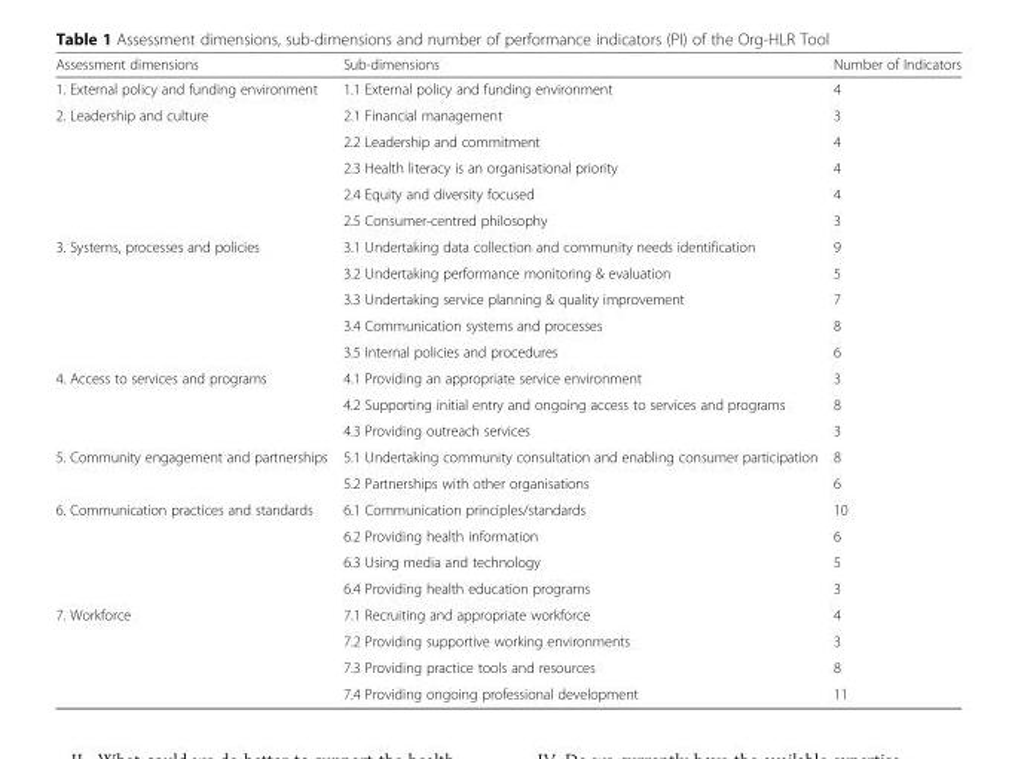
<table><thead><tr><td>Assessment dimensions</td><td>Sub-dimensions</td><td>Number of Indicators</td></tr></thead><tbody><tr><td>1. External policy and funding environment</td><td>1.1 External policy and funding environment</td><td>4</td></tr><tr><td rowspan="5">2. Leadership and culture</td><td>2.1 Financial management</td><td>3</td></tr><tr><td>2.2 Leadership and commitment</td><td>4</td></tr><tr><td>2.3 Health literacy is an organisational priority</td><td>4</td></tr><tr><td>2.4 Equity and diversity focused</td><td>4</td></tr><tr><td>2.5 Consumer-centred philosophy</td><td>3</td></tr><tr><td rowspan="5">3. Systems, processes and policies</td><td>3.1 Undertaking data collection and community needs identification</td><td>9</td></tr><tr><td>3.2 Undertaking performance monitoring &amp; evaluation</td><td>5</td></tr><tr><td>3.3 Undertaking service planning &amp; quality improvement</td><td>7</td></tr><tr><td>3.4 Communication systems and processes</td><td>8</td></tr><tr><td>3.5 Internal policies and procedures</td><td>6</td></tr><tr><td rowspan="3">4. Access to services and programs</td><td>4.1 Providing an appropriate service environment</td><td>3</td></tr><tr><td>4.2 Supporting initial entry and ongoing access to services and programs</td><td>8</td></tr><tr><td>4.3 Providing outreach services</td><td>3</td></tr><tr><td rowspan="2">5. Community engagement and partnerships</td><td>5.1 Undertaking community consultation and enabling consumer participation</td><td>8</td></tr><tr><td>5.2 Partnerships with other organisations</td><td>6</td></tr><tr><td rowspan="4">6. Communication practices and standards</td><td>6.1 Communication principles/standards</td><td>10</td></tr><tr><td>6.2 Providing health information</td><td>6</td></tr><tr><td>6.3 Using media and technology</td><td>5</td></tr><tr><td>6.4 Providing health education programs</td><td>3</td></tr><tr><td rowspan="4">7. Workforce</td><td>7.1 Recruiting and appropriate workforce</td><td>4</td></tr><tr><td>7.2 Providing supportive working environments</td><td>3</td></tr><tr><td>7.3 Providing practice tools and resources</td><td>8</td></tr><tr><td>7.4 Providing ongoing professional development</td><td>11</td></tr></tbody></table>